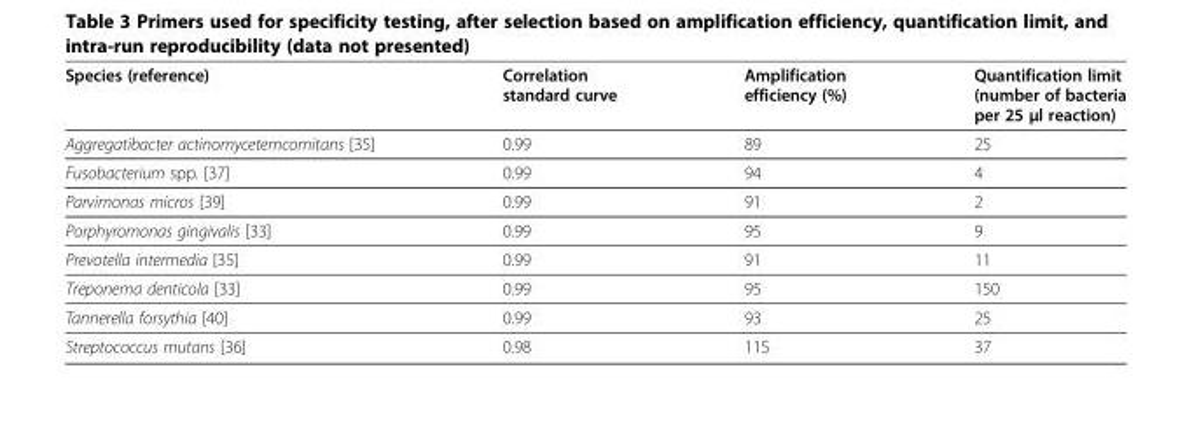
<table><thead><tr><td>Species (reference)</td><td>Correlation standard curve</td><td>Amplification efficiency (%)</td><td>Quantification limit (number of bacteria per 25 μl reaction)</td></tr></thead><tbody><tr><td>Aggregatibacter actinomycetemcomitans [35]</td><td>0.99</td><td>89</td><td>25</td></tr><tr><td>Fusobacterium spp. [37]</td><td>0.99</td><td>94</td><td>4</td></tr><tr><td>Parvimonas micros [39]</td><td>0.99</td><td>91</td><td>2</td></tr><tr><td>Porphyromonas gingivalis [33]</td><td>0.99</td><td>95</td><td>9</td></tr><tr><td>Prevotella intermedia [35]</td><td>0.99</td><td>91</td><td>11</td></tr><tr><td>Treponema denticola [33]</td><td>0.99</td><td>95</td><td>150</td></tr><tr><td>Tannerella forsythia [40]</td><td>0.99</td><td>93</td><td>25</td></tr><tr><td>Streptococcus mutans [36]</td><td>0.98</td><td>115</td><td>37</td></tr></tbody></table>